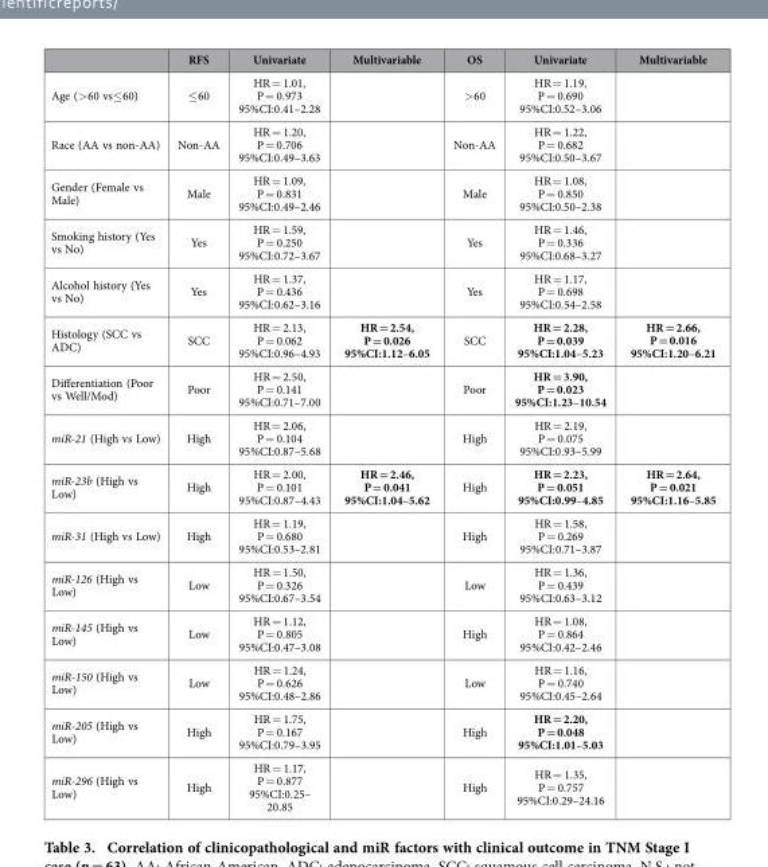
<table><thead><tr><td></td><td>RFS</td><td>Univariate</td><td>Multivariable</td><td>OS</td><td>Univariate</td><td>Multivariable</td></tr></thead><tbody><tr><td>Age (&gt; 60 vs≤ 60)</td><td>≤ 60</td><td>HR = 1.01, P = 0.973 95%CI:0.41–2.28</td><td></td><td>&gt; 60</td><td>HR = 1.19, P = 0.690 95%CI:0.52–3.06</td><td></td></tr><tr><td>Race (AA vs non-AA)</td><td>Non-AA</td><td>HR = 1.20, P = 0.706 95%CI:0.49–3.63</td><td></td><td>Non-AA</td><td>HR = 1.22, P = 0.682 95%CI:0.50–3.67</td><td></td></tr><tr><td>Gender (Female vs Male)</td><td>Male</td><td>HR = 1.09, P = 0.831 95%CI:0.49–2.46</td><td></td><td>Male</td><td>HR = 1.08, P = 0.850 95%CI:0.50–2.38</td><td></td></tr><tr><td>Smoking history (Yes vs No)</td><td>Yes</td><td>HR = 1.59, P = 0.250 95%CI:0.72–3.67</td><td></td><td>Yes</td><td>HR = 1.46, P = 0.336 95%CI:0.68–3.27</td><td></td></tr><tr><td>Alcohol history (Yes vs No)</td><td>Yes</td><td>HR = 1.37, P = 0.436 95%CI:0.62–3.16</td><td></td><td>Yes</td><td>HR = 1.17, P = 0.698 95%CI:0.54–2.58</td><td></td></tr><tr><td>Histology (SCC vs ADC)</td><td>SCC</td><td>HR = 2.13, P = 0.062 95%CI:0.96–4.93</td><td>HR = 2.54, P = 0.026 95%CI:1.12–6.05</td><td>SCC</td><td>HR = 2.28, P = 0.039 95%CI:1.04–5.23</td><td>HR = 2.66, P = 0.016 95%CI:1.20–6.21</td></tr><tr><td>Differentiation (Poor vs Well/Mod)</td><td>Poor</td><td>HR = 2.50, P = 0.141 95%CI:0.71–7.00</td><td></td><td>Poor</td><td>HR = 3.90, P = 0.023 95%CI:1.23–10.54</td><td></td></tr><tr><td>miR-21 (High vs Low)</td><td>High</td><td>HR = 2.06, P = 0.104 95%CI:0.87–5.68</td><td></td><td>High</td><td>HR = 2.19, P = 0.075 95%CI:0.93–5.99</td><td></td></tr><tr><td>miR-23b (High vs Low)</td><td>High</td><td>HR = 2.00, P = 0.101 95%CI:0.87–4.43</td><td>HR = 2.46, P = 0.041 95%CI:1.04–5.62</td><td>High</td><td>HR = 2.23, P = 0.051 95%CI:0.99–4.85</td><td>HR = 2.64, P = 0.021 95%CI:1.16–5.85</td></tr><tr><td>miR-31 (High vs Low)</td><td>High</td><td>HR = 1.19, P = 0.680 95%CI:0.53–2.81</td><td></td><td>High</td><td>HR = 1.58, P = 0.269 95%CI:0.71–3.87</td><td></td></tr><tr><td>miR-126 (High vs Low)</td><td>Low</td><td>HR = 1.50, P = 0.326 95%CI:0.67–3.54</td><td></td><td>Low</td><td>HR = 1.36, P = 0.439 95%CI:0.63–3.12</td><td></td></tr><tr><td>miR-145 (High vs Low)</td><td>Low</td><td>HR = 1.12, P = 0.805 95%CI:0.47–3.08</td><td></td><td>High</td><td>HR = 1.08, P = 0.864 95%CI:0.42–2.46</td><td></td></tr><tr><td>miR-150 (High vs Low)</td><td>Low</td><td>HR = 1.24, P = 0.626 95%CI:0.48–2.86</td><td></td><td>Low</td><td>HR = 1.16, P = 0.740 95%CI:0.45–2.64</td><td></td></tr><tr><td>miR-205 (High vs Low)</td><td>High</td><td>HR = 1.75, P = 0.167 95%CI:0.79–3.95</td><td></td><td>High</td><td>HR = 2.20, P = 0.048 95%CI:1.01–5.03</td><td></td></tr><tr><td>miR-296 (High vs Low)</td><td>High</td><td>HR = 1.17, P = 0.877 95%CI:0.25– 20.85</td><td></td><td>High</td><td>HR = 1.35, P = 0.757 95%CI:0.29–24.16</td><td></td></tr></tbody></table>